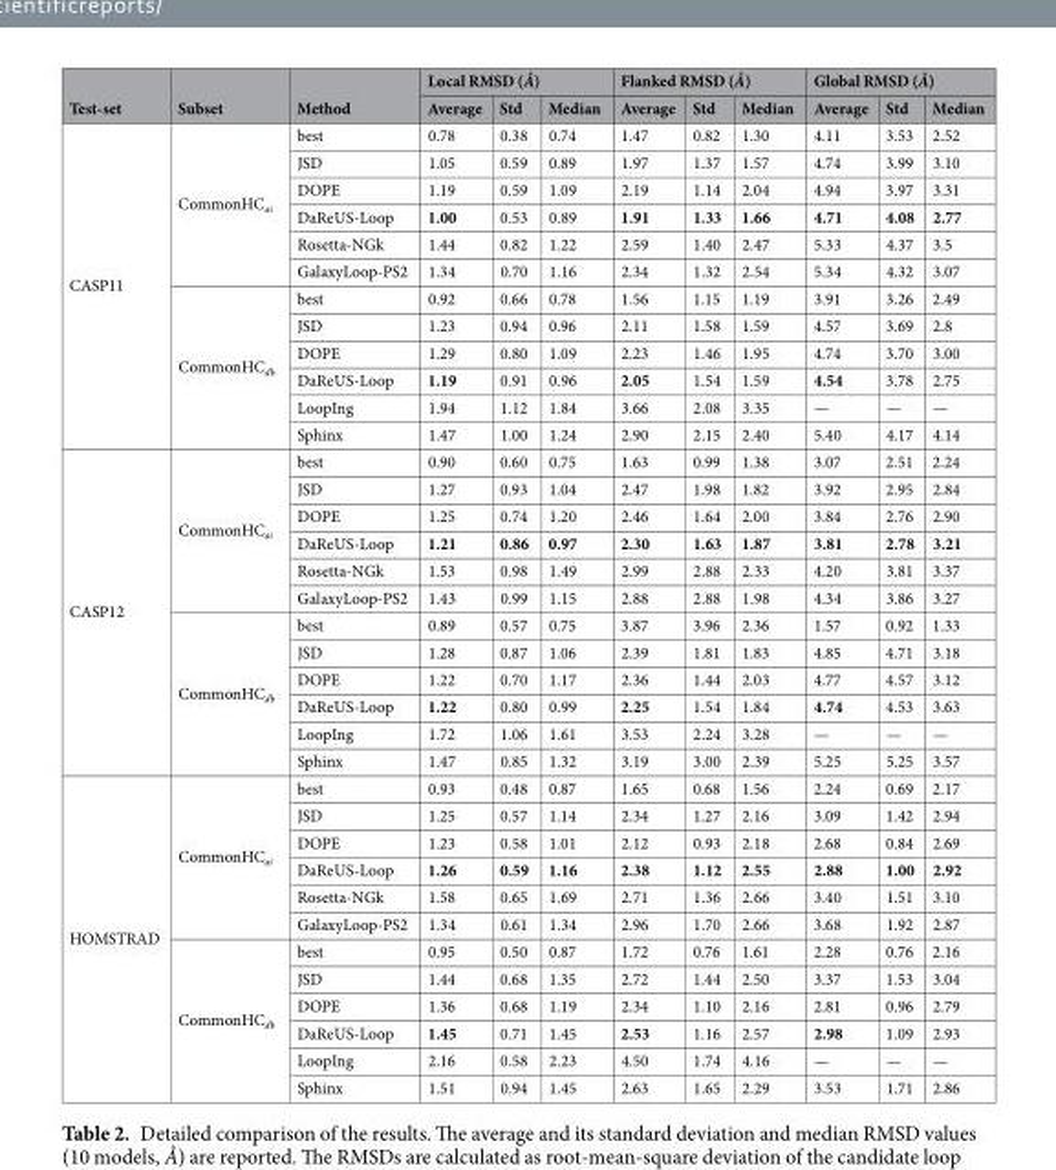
<table><thead><tr><td rowspan="2">Test-set</td><td rowspan="2">Subset</td><td rowspan="2">Method</td><td colspan="3">Local RMSD (Å)</td><td colspan="3">Flanked RMSD (Å)</td><td colspan="3">Global RMSD (Å)</td></tr><tr><td>Average</td><td>Std</td><td>Median</td><td>Average</td><td>Std</td><td>Median</td><td>Average</td><td>Std</td><td>Median</td></tr></thead><tbody><tr><td rowspan="12">CASP11</td><td rowspan="6">CommonHC<sub>ai</sub></td><td>best</td><td>0.78</td><td>0.38</td><td>0.74</td><td>1.47</td><td>0.82</td><td>1.30</td><td>4.11</td><td>3.53</td><td>2.52</td></tr><tr><td>JSD</td><td>1.05</td><td>0.59</td><td>0.89</td><td>1.97</td><td>1.37</td><td>1.57</td><td>4.74</td><td>3.99</td><td>3.10</td></tr><tr><td>DOPE</td><td>1.19</td><td>0.59</td><td>1.09</td><td>2.19</td><td>1.14</td><td>2.04</td><td>4.94</td><td>3.97</td><td>3.31</td></tr><tr><td>DaReUS-Loop</td><td>1.00</td><td>0.53</td><td>0.89</td><td>1.91</td><td>1.33</td><td>1.66</td><td>4.71</td><td>4.08</td><td>2.77</td></tr><tr><td>Rosetta-NGk</td><td>1.44</td><td>0.82</td><td>1.22</td><td>2.59</td><td>1.40</td><td>2.47</td><td>5.33</td><td>4.37</td><td>3.5</td></tr><tr><td>GalaxyLoop-PS2</td><td>1.34</td><td>0.70</td><td>1.16</td><td>2.34</td><td>1.32</td><td>2.54</td><td>5.34</td><td>4.32</td><td>3.07</td></tr><tr><td rowspan="6">CommonHC<sub>db</sub></td><td>best</td><td>0.92</td><td>0.66</td><td>0.78</td><td>1.56</td><td>1.15</td><td>1.19</td><td>3.91</td><td>3.26</td><td>2.49</td></tr><tr><td>JSD</td><td>1.23</td><td>0.94</td><td>0.96</td><td>2.11</td><td>1.58</td><td>1.59</td><td>4.57</td><td>3.69</td><td>2.8</td></tr><tr><td>DOPE</td><td>1.29</td><td>0.80</td><td>1.09</td><td>2.23</td><td>1.46</td><td>1.95</td><td>4.74</td><td>3.70</td><td>3.00</td></tr><tr><td>DaReUS-Loop</td><td>1.19</td><td>0.91</td><td>0.96</td><td>2.05</td><td>1.54</td><td>1.59</td><td>4.54</td><td>3.78</td><td>2.75</td></tr><tr><td>LoopIng</td><td>1.94</td><td>1.12</td><td>1.84</td><td>3.66</td><td>2.08</td><td>3.35</td><td>—</td><td>—</td><td>—</td></tr><tr><td>Sphinx</td><td>1.47</td><td>1.00</td><td>1.24</td><td>2.90</td><td>2.15</td><td>2.40</td><td>5.40</td><td>4.17</td><td>4.14</td></tr><tr><td rowspan="12">CASP12</td><td rowspan="6">CommonHC<sub>ai</sub></td><td>best</td><td>0.90</td><td>0.60</td><td>0.75</td><td>1.63</td><td>0.99</td><td>1.38</td><td>3.07</td><td>2.51</td><td>2.24</td></tr><tr><td>JSD</td><td>1.27</td><td>0.93</td><td>1.04</td><td>2.47</td><td>1.98</td><td>1.82</td><td>3.92</td><td>2.95</td><td>2.84</td></tr><tr><td>DOPE</td><td>1.25</td><td>0.74</td><td>1.20</td><td>2.46</td><td>1.64</td><td>2.00</td><td>3.84</td><td>2.76</td><td>2.90</td></tr><tr><td>DaReUS-Loop</td><td>1.21</td><td>0.86</td><td>0.97</td><td>2.30</td><td>1.63</td><td>1.87</td><td>3.81</td><td>2.78</td><td>3.21</td></tr><tr><td>Rosetta-NGk</td><td>1.53</td><td>0.98</td><td>1.49</td><td>2.99</td><td>2.88</td><td>2.33</td><td>4.20</td><td>3.81</td><td>3.37</td></tr><tr><td>GalaxyLoop-PS2</td><td>1.43</td><td>0.99</td><td>1.15</td><td>2.88</td><td>2.88</td><td>1.98</td><td>4.34</td><td>3.86</td><td>3.27</td></tr><tr><td rowspan="6">CommonHC<sub>db</sub></td><td>best</td><td>0.89</td><td>0.57</td><td>0.75</td><td>3.87</td><td>3.96</td><td>2.36</td><td>1.57</td><td>0.92</td><td>1.33</td></tr><tr><td>JSD</td><td>1.28</td><td>0.87</td><td>1.06</td><td>2.39</td><td>1.81</td><td>1.83</td><td>4.85</td><td>4.71</td><td>3.18</td></tr><tr><td>DOPE</td><td>1.22</td><td>0.70</td><td>1.17</td><td>2.36</td><td>1.44</td><td>2.03</td><td>4.77</td><td>4.57</td><td>3.12</td></tr><tr><td>DaReUS-Loop</td><td>1.22</td><td>0.80</td><td>0.99</td><td>2.25</td><td>1.54</td><td>1.84</td><td>4.74</td><td>4.53</td><td>3.63</td></tr><tr><td>LoopIng</td><td>1.72</td><td>1.06</td><td>1.61</td><td>3.53</td><td>2.24</td><td>3.28</td><td>—</td><td>—</td><td>—</td></tr><tr><td>Sphinx</td><td>1.47</td><td>0.85</td><td>1.32</td><td>3.19</td><td>3.00</td><td>2.39</td><td>5.25</td><td>5.25</td><td>3.57</td></tr><tr><td rowspan="12">HOMSTRAD</td><td rowspan="6">CommonHC<sub>ai</sub></td><td>best</td><td>0.93</td><td>0.48</td><td>0.87</td><td>1.65</td><td>0.68</td><td>1.56</td><td>2.24</td><td>0.69</td><td>2.17</td></tr><tr><td>JSD</td><td>1.25</td><td>0.57</td><td>1.14</td><td>2.34</td><td>1.27</td><td>2.16</td><td>3.09</td><td>1.42</td><td>2.94</td></tr><tr><td>DOPE</td><td>1.23</td><td>0.58</td><td>1.01</td><td>2.12</td><td>0.93</td><td>2.18</td><td>2.68</td><td>0.84</td><td>2.69</td></tr><tr><td>DaReUS-Loop</td><td>1.26</td><td>0.59</td><td>1.16</td><td>2.38</td><td>1.12</td><td>2.55</td><td>2.88</td><td>1.00</td><td>2.92</td></tr><tr><td>Rosetta-NGk</td><td>1.58</td><td>0.65</td><td>1.69</td><td>2.71</td><td>1.36</td><td>2.66</td><td>3.40</td><td>1.51</td><td>3.10</td></tr><tr><td>GalaxyLoop-PS2</td><td>1.34</td><td>0.61</td><td>1.34</td><td>2.96</td><td>1.70</td><td>2.66</td><td>3.68</td><td>1.92</td><td>2.87</td></tr><tr><td rowspan="6">CommonHC<sub>db</sub></td><td>best</td><td>0.95</td><td>0.50</td><td>0.87</td><td>1.72</td><td>0.76</td><td>1.61</td><td>2.28</td><td>0.76</td><td>2.16</td></tr><tr><td>JSD</td><td>1.44</td><td>0.68</td><td>1.35</td><td>2.72</td><td>1.44</td><td>2.50</td><td>3.37</td><td>1.53</td><td>3.04</td></tr><tr><td>DOPE</td><td>1.36</td><td>0.68</td><td>1.19</td><td>2.34</td><td>1.10</td><td>2.16</td><td>2.81</td><td>0.96</td><td>2.79</td></tr><tr><td>DaReUS-Loop</td><td>1.45</td><td>0.71</td><td>1.45</td><td>2.53</td><td>1.16</td><td>2.57</td><td>2.98</td><td>1.09</td><td>2.93</td></tr><tr><td>LoopIng</td><td>2.16</td><td>0.58</td><td>2.23</td><td>4.50</td><td>1.74</td><td>4.16</td><td>—</td><td>—</td><td>—</td></tr><tr><td>Sphinx</td><td>1.51</td><td>0.94</td><td>1.45</td><td>2.63</td><td>1.65</td><td>2.29</td><td>3.53</td><td>1.71</td><td>2.86</td></tr></tbody></table>